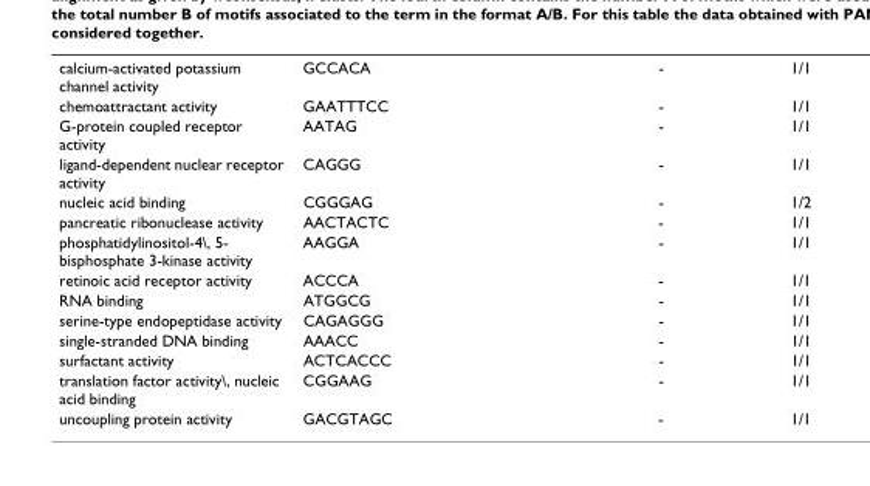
<table><tbody><tr><td>calcium-activated potassium channel activity</td><td>GCCACA</td><td>-</td><td>1/1</td></tr><tr><td>chemoattractant activity</td><td>GAATTTCC</td><td>-</td><td>1/1</td></tr><tr><td>G-protein coupled receptor activity</td><td>AATAG</td><td>-</td><td>1/1</td></tr><tr><td>ligand-dependent nuclear receptor activity</td><td>CAGGG</td><td>-</td><td>1/1</td></tr><tr><td>nucleic acid binding</td><td>CGGGAG</td><td>-</td><td>1/2</td></tr><tr><td>pancreatic ribonuclease activity</td><td>AACTACTC</td><td>-</td><td>1/1</td></tr><tr><td>phosphatidylinositol-4\, 5- bisphosphate 3-kinase activity</td><td>AAGGA</td><td>-</td><td>1/1</td></tr><tr><td>retinoic acid receptor activity</td><td>ACCCA</td><td>-</td><td>1/1</td></tr><tr><td>RNA binding</td><td>ATGGCG</td><td>-</td><td>1/1</td></tr><tr><td>serine-type endopeptidase activity</td><td>CAGAGGG</td><td>-</td><td>1/1</td></tr><tr><td>single-stranded DNA binding</td><td>AAACC</td><td>-</td><td>1/1</td></tr><tr><td>surfactant activity</td><td>ACTCACCC</td><td>-</td><td>1/1</td></tr><tr><td>translation factor activity\, nucleic acid binding</td><td>CGGAAG</td><td>-</td><td>1/1</td></tr><tr><td>uncoupling protein activity</td><td>GACGTAGC</td><td>-</td><td>1/1</td></tr></tbody></table>